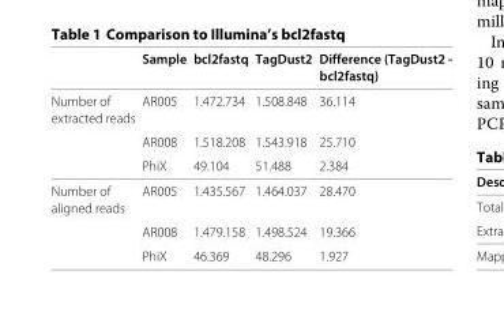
<table><thead><tr><td rowspan="2"></td><td rowspan="2">Sample</td><td rowspan="2">bcl2fastq</td><td rowspan="2">TagDust2</td><td rowspan="2">Difference (TagDust2 - bcl2fastq)</td></tr><tr></tr></thead><tbody><tr><td>Number of</td><td>AR005</td><td>1.472.734</td><td>1.508.848</td><td>36.114</td></tr><tr><td colspan="5">extracted reads</td></tr><tr><td></td><td>AR008</td><td>1.518.208</td><td>1.543.918</td><td>25.710</td></tr><tr><td></td><td>PhiX</td><td>49.104</td><td>51.488</td><td>2.384</td></tr><tr><td>Number of</td><td>AR005</td><td>1.435.567</td><td>1.464.037</td><td>28.470</td></tr><tr><td colspan="5">aligned reads</td></tr><tr><td></td><td>AR008</td><td>1.479.158</td><td>1.498.524</td><td>19.366</td></tr><tr><td></td><td>PhiX</td><td>46.369</td><td>48.296</td><td>1.927</td></tr></tbody></table>